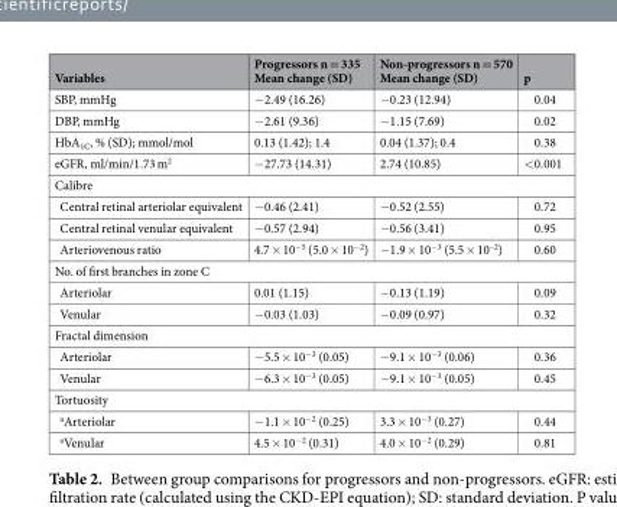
<table><thead><tr><td>Variables</td><td>Progressors n = 335 Mean change (SD)</td><td>Non-progressors n = 570 Mean change (SD)</td><td>p</td></tr></thead><tbody><tr><td>SBP, mmHg</td><td>−2.49 (16.26)</td><td>−0.23 (12.94)</td><td>0.04</td></tr><tr><td>DBP, mmHg</td><td>−2.61 (9.36)</td><td>−1.15 (7.69)</td><td>0.02</td></tr><tr><td>HbA<sub>1C</sub>, % (SD); mmol/mol</td><td>0.13 (1.42); 1.4</td><td>0.04 (1.37); 0.4</td><td>0.38</td></tr><tr><td>eGFR, ml/min/1.73 m<sup>2</sup></td><td>−27.73 (14.31)</td><td>2.74 (10.85)</td><td>&lt;0.001</td></tr><tr><td colspan="4">Calibre</td></tr><tr><td>Central retinal arteriolar equivalent</td><td>−0.46 (2.41)</td><td>−0.52 (2.55)</td><td>0.72</td></tr><tr><td>Central retinal venular equivalent</td><td>−0.57 (2.94)</td><td>−0.56 (3.41)</td><td>0.95</td></tr><tr><td>Arteriovenous ratio</td><td>4.7 × 10<sup>−5</sup> (5.0 × 10<sup>−2</sup>)</td><td>−1.9 × 10<sup>−3</sup> (5.5 × 10<sup>–2</sup>)</td><td>0.60</td></tr><tr><td colspan="4">No. of first branches in zone C</td></tr><tr><td>Arteriolar</td><td>0.01 (1.15)</td><td>−0.13 (1.19)</td><td>0.09</td></tr><tr><td>Venular</td><td>−0.03 (1.03)</td><td>−0.09 (0.97)</td><td>0.32</td></tr><tr><td colspan="4">Fractal dimension</td></tr><tr><td>Arteriolar</td><td>−5.5 × 10<sup>−3</sup> (0.05)</td><td>−9.1 × 10<sup>−3</sup> (0.06)</td><td>0.36</td></tr><tr><td>Venular</td><td>−6.3 × 10<sup>−3</sup> (0.05)</td><td>−9.1 × 10<sup>−3</sup> (0.05)</td><td>0.45</td></tr><tr><td colspan="4">Tortuosity</td></tr><tr><td><sup>a</sup>Arteriolar</td><td>−1.1 × 10<sup>−2</sup> (0.25)</td><td>3.3 × 10<sup>−3</sup> (0.27)</td><td>0.44</td></tr><tr><td><sup>a</sup>Venular</td><td>4.5 × 10<sup>−2</sup> (0.31)</td><td>4.0 × 10<sup>−2</sup> (0.29)</td><td>0.81</td></tr></tbody></table>